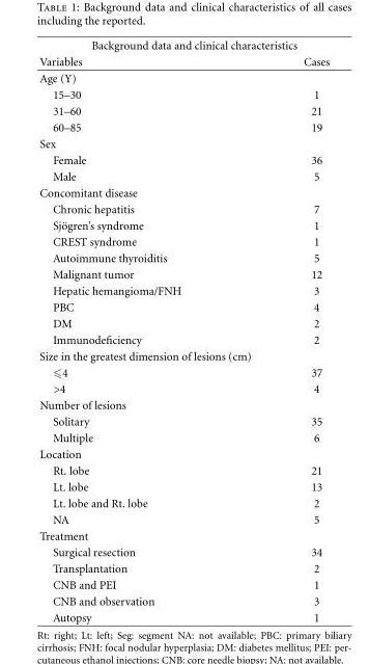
<table><thead><tr><td colspan="2">Background data and clinical characteristics</td></tr><tr><td>Variables</td><td>Cases</td></tr></thead><tbody><tr><td colspan="2">Age (Y)</td></tr><tr><td>15–30</td><td>1</td></tr><tr><td>31–60</td><td>21</td></tr><tr><td>60–85</td><td>19</td></tr><tr><td colspan="2">Sex</td></tr><tr><td>Female</td><td>36</td></tr><tr><td>Male</td><td>5</td></tr><tr><td colspan="2">Concomitant disease</td></tr><tr><td>Chronic hepatitis</td><td>7</td></tr><tr><td>Sj¨ogren’s syndrome</td><td>1</td></tr><tr><td>CREST syndrome</td><td>1</td></tr><tr><td>Autoimmune thyroiditis</td><td>5</td></tr><tr><td>Malignant tumor</td><td>12</td></tr><tr><td>Hepatic hemangioma/FNH</td><td>3</td></tr><tr><td>PBC</td><td>4</td></tr><tr><td>DM</td><td>2</td></tr><tr><td>Immunodeficiency</td><td>2</td></tr><tr><td colspan="2">Size in the greatest dimension of lesions (cm)</td></tr><tr><td>⩽4</td><td>37</td></tr><tr><td>&gt;4</td><td>4</td></tr><tr><td colspan="2">Number of lesions</td></tr><tr><td>Solitary</td><td>35</td></tr><tr><td>Multiple</td><td>6</td></tr><tr><td colspan="2">Location</td></tr><tr><td>Rt. lobe</td><td>21</td></tr><tr><td>Lt. lobe</td><td>13</td></tr><tr><td>Lt. lobe and Rt. lobe</td><td>2</td></tr><tr><td>NA</td><td>5</td></tr><tr><td colspan="2">Treatment</td></tr><tr><td>Surgical resection</td><td>34</td></tr><tr><td>Transplantation</td><td>2</td></tr><tr><td>CNB and PEI</td><td>1</td></tr><tr><td>CNB and observation</td><td>3</td></tr><tr><td>Autopsy</td><td>1</td></tr></tbody></table>